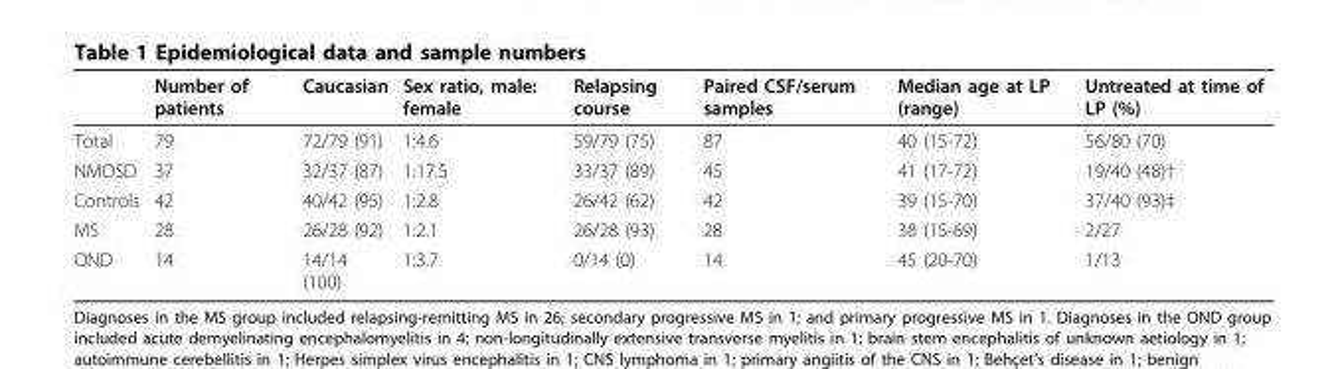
<table><thead><tr><td></td><td>Number of patients</td><td>Caucasian</td><td>Sex ratio, male: female</td><td>Relapsing course</td><td>Paired CSF/serum samples</td><td>Median age at LP (range)</td><td>Untreated at time of LP (%)</td></tr></thead><tbody><tr><td>Total</td><td>79</td><td>72/79 (91)</td><td>1:4.6</td><td>59/79 (75)</td><td>87</td><td>40 (15-72)</td><td>56/80 (70)</td></tr><tr><td>NMOSD</td><td>37</td><td>32/37 (87)</td><td>1:17.5</td><td>33/37 (89)</td><td>45</td><td>41 (17-72)</td><td>19/40 (48)†</td></tr><tr><td>Controls</td><td>42</td><td>40/42 (95)</td><td>1:2.8</td><td>26/42 (62)</td><td>42</td><td>39 (15-70)</td><td>37/40 (93)‡</td></tr><tr><td>MS</td><td>28</td><td>26/28 (92)</td><td>1:2.1</td><td>26/28 (93)</td><td>28</td><td>38 (15-69)</td><td>2/27</td></tr><tr><td>OND</td><td>14</td><td>14/14 (100)</td><td>1:3.7</td><td>0/14 (0)</td><td>14</td><td>45 (20-70)</td><td>1/13</td></tr></tbody></table>